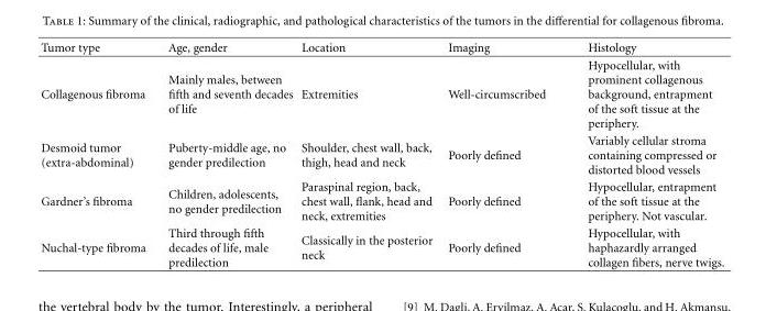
<table><thead><tr><td>Tumor type</td><td>Age, gender</td><td>Location</td><td>Imaging</td><td>Histology</td></tr></thead><tbody><tr><td>Collagenous fibroma</td><td>Mainly males, between fifth and seventh decades of life</td><td>Extremities</td><td>Well-circumscribed</td><td>Hypocellular, with prominent collagenous background, entrapment of the soft tissue at the periphery.</td></tr><tr><td>Desmoid tumor (extra-abdominal)</td><td>Puberty-middle age, no gender predilection</td><td>Shoulder, chest wall, back, thigh, head and neck</td><td>Poorly defined</td><td>Variably cellular stroma containing compressed or distorted blood vessels</td></tr><tr><td>Gardner’s fibroma</td><td>Children, adolescents, no gender predilection</td><td>Paraspinal region, back, chest wall, flank, head and neck, extremities</td><td>Poorly defined</td><td>Hypocellular, entrapment of the soft tissue at the periphery. Not vascular.</td></tr><tr><td>Nuchal-type fibroma</td><td>Third through fifth decades of life, male predilection</td><td>Classically in the posterior neck</td><td>Poorly defined</td><td>Hypocellular, with haphazardly arranged collagen fibers, nerve twigs.</td></tr></tbody></table>